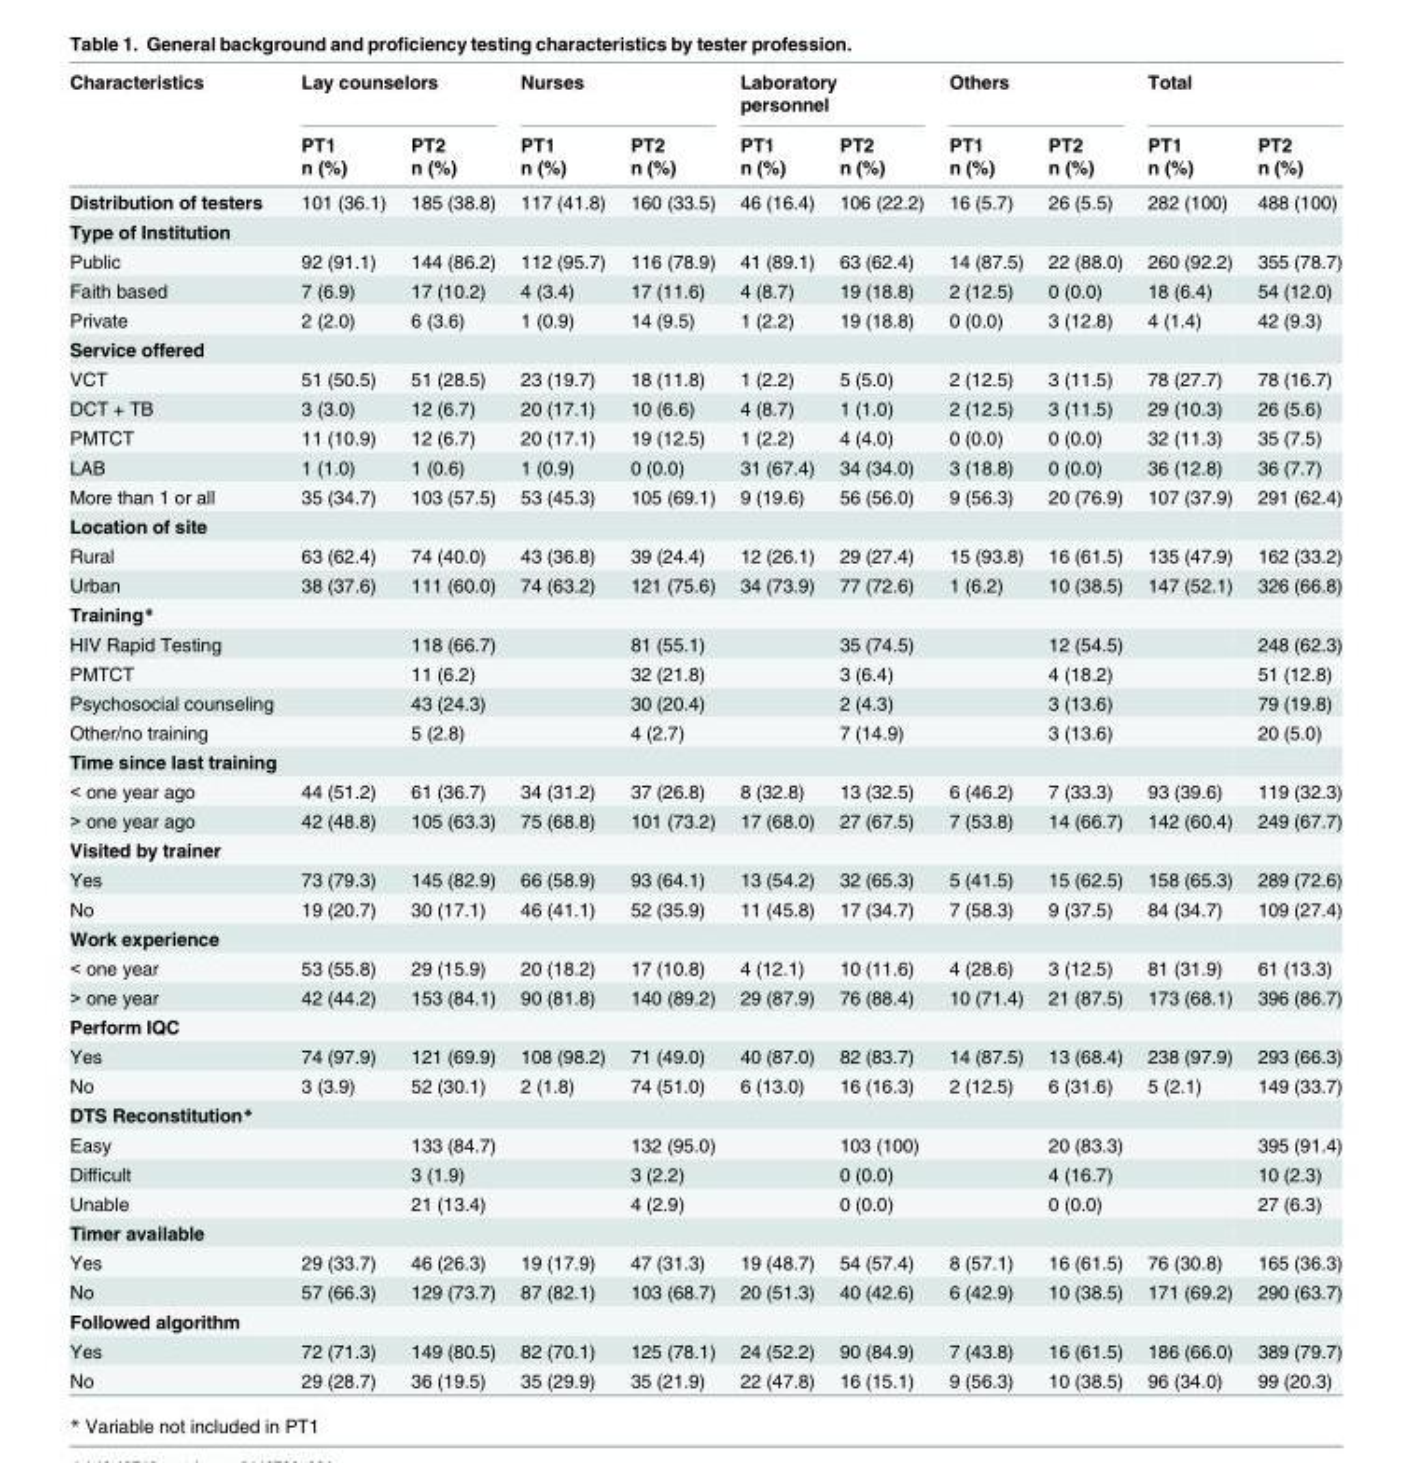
<table><thead><tr><td rowspan="3">Characteristics</td><td colspan="2">Lay counselors</td><td colspan="2">Nurses</td><td colspan="2">Laboratory personnel</td><td colspan="2">Others</td><td colspan="2">Total</td></tr><tr><td rowspan="2">PT1 n (%)</td><td rowspan="2">PT2 n (%)</td><td rowspan="2">PT1 n (%)</td><td rowspan="2">PT2 n (%)</td><td rowspan="2">PT1 n (%)</td><td rowspan="2">PT2 n (%)</td><td rowspan="2">PT1 n (%)</td><td rowspan="2">PT2 n (%)</td><td rowspan="2">PT1 n (%)</td><td rowspan="2">PT2 n (%)</td></tr><tr></tr></thead><tbody><tr><td>Distribution of testers</td><td>101 (36.1)</td><td>185 (38.8)</td><td>117 (41.8)</td><td>160 (33.5)</td><td>46 (16.4)</td><td>106 (22.2)</td><td>16 (5.7)</td><td>26 (5.5)</td><td>282 (100)</td><td>488 (100)</td></tr><tr><td colspan="11">Type of Institution</td></tr><tr><td>Public</td><td>92 (91.1)</td><td>144 (86.2)</td><td>112 (95.7)</td><td>116 (78.9)</td><td>41 (89.1)</td><td>63 (62.4)</td><td>14 (87.5)</td><td>22 (88.0)</td><td>260 (92.2)</td><td>355 (78.7)</td></tr><tr><td>Faith based</td><td>7 (6.9)</td><td>17 (10.2)</td><td>4 (3.4)</td><td>17 (11.6)</td><td>4 (8.7)</td><td>19 (18.8)</td><td>2 (12.5)</td><td>0 (0.0)</td><td>18 (6.4)</td><td>54 (12.0)</td></tr><tr><td>Private</td><td>2 (2.0)</td><td>6 (3.6)</td><td>1 (0.9)</td><td>14 (9.5)</td><td>1 (2.2)</td><td>19 (18.8)</td><td>0 (0.0)</td><td>3 (12.8)</td><td>4 (1.4)</td><td>42 (9.3)</td></tr><tr><td colspan="11">Service offered</td></tr><tr><td>VCT</td><td>51 (50.5)</td><td>51 (28.5)</td><td>23 (19.7)</td><td>18 (11.8)</td><td>1 (2.2)</td><td>5 (5.0)</td><td>2 (12.5)</td><td>3 (11.5)</td><td>78 (27.7)</td><td>78 (16.7)</td></tr><tr><td>DCT + TB</td><td>3 (3.0)</td><td>12 (6.7)</td><td>20 (17.1)</td><td>10 (6.6)</td><td>4 (8.7)</td><td>1 (1.0)</td><td>2 (12.5)</td><td>3 (11.5)</td><td>29 (10.3)</td><td>26 (5.6)</td></tr><tr><td>PMTCT</td><td>11 (10.9)</td><td>12 (6.7)</td><td>20 (17.1)</td><td>19 (12.5)</td><td>1 (2.2)</td><td>4 (4.0)</td><td>0 (0.0)</td><td>0 (0.0)</td><td>32 (11.3)</td><td>35 (7.5)</td></tr><tr><td>LAB</td><td>1 (1.0)</td><td>1 (0.6)</td><td>1 (0.9)</td><td>0 (0.0)</td><td>31 (67.4)</td><td>34 (34.0)</td><td>3 (18.8)</td><td>0 (0.0)</td><td>36 (12.8)</td><td>36 (7.7)</td></tr><tr><td>More than 1 or all</td><td>35 (34.7)</td><td>103 (57.5)</td><td>53 (45.3)</td><td>105 (69.1)</td><td>9 (19.6)</td><td>56 (56.0)</td><td>9 (56.3)</td><td>20 (76.9)</td><td>107 (37.9)</td><td>291 (62.4)</td></tr><tr><td colspan="11">Location of site</td></tr><tr><td>Rural</td><td>63 (62.4)</td><td>74 (40.0)</td><td>43 (36.8)</td><td>39 (24.4)</td><td>12 (26.1)</td><td>29 (27.4)</td><td>15 (93.8)</td><td>16 (61.5)</td><td>135 (47.9)</td><td>162 (33.2)</td></tr><tr><td>Urban</td><td>38 (37.6)</td><td>111 (60.0)</td><td>74 (63.2)</td><td>121 (75.6)</td><td>34 (73.9)</td><td>77 (72.6)</td><td>1 (6.2)</td><td>10 (38.5)</td><td>147 (52.1)</td><td>326 (66.8)</td></tr><tr><td colspan="11">Training*</td></tr><tr><td>HIV Rapid Testing</td><td></td><td>118 (66.7)</td><td></td><td>81 (55.1)</td><td></td><td>35 (74.5)</td><td></td><td>12 (54.5)</td><td></td><td>248 (62.3)</td></tr><tr><td>PMTCT</td><td></td><td>11 (6.2)</td><td></td><td>32 (21.8)</td><td></td><td>3 (6.4)</td><td></td><td>4 (18.2)</td><td></td><td>51 (12.8)</td></tr><tr><td>Psychosocial counseling</td><td></td><td>43 (24.3)</td><td></td><td>30 (20.4)</td><td></td><td>2 (4.3)</td><td></td><td>3 (13.6)</td><td></td><td>79 (19.8)</td></tr><tr><td>Other/no training</td><td></td><td>5 (2.8)</td><td></td><td>4 (2.7)</td><td></td><td>7 (14.9)</td><td></td><td>3 (13.6)</td><td></td><td>20 (5.0)</td></tr><tr><td colspan="11">Time since last training</td></tr><tr><td>&lt; one year ago</td><td>44 (51.2)</td><td>61 (36.7)</td><td>34 (31.2)</td><td>37 (26.8)</td><td>8 (32.8)</td><td>13 (32.5)</td><td>6 (46.2)</td><td>7 (33.3)</td><td>93 (39.6)</td><td>119 (32.3)</td></tr><tr><td>&gt; one year ago</td><td>42 (48.8)</td><td>105 (63.3)</td><td>75 (68.8)</td><td>101 (73.2)</td><td>17 (68.0)</td><td>27 (67.5)</td><td>7 (53.8)</td><td>14 (66.7)</td><td>142 (60.4)</td><td>249 (67.7)</td></tr><tr><td colspan="11">Visited by trainer</td></tr><tr><td>Yes</td><td>73 (79.3)</td><td>145 (82.9)</td><td>66 (58.9)</td><td>93 (64.1)</td><td>13 (54.2)</td><td>32 (65.3)</td><td>5 (41.5)</td><td>15 (62.5)</td><td>158 (65.3)</td><td>289 (72.6)</td></tr><tr><td>No</td><td>19 (20.7)</td><td>30 (17.1)</td><td>46 (41.1)</td><td>52 (35.9)</td><td>11 (45.8)</td><td>17 (34.7)</td><td>7 (58.3)</td><td>9 (37.5)</td><td>84 (34.7)</td><td>109 (27.4)</td></tr><tr><td colspan="11">Work experience</td></tr><tr><td>&lt; one year</td><td>53 (55.8)</td><td>29 (15.9)</td><td>20 (18.2)</td><td>17 (10.8)</td><td>4 (12.1)</td><td>10 (11.6)</td><td>4 (28.6)</td><td>3 (12.5)</td><td>81 (31.9)</td><td>61 (13.3)</td></tr><tr><td>&gt; one year</td><td>42 (44.2)</td><td>153 (84.1)</td><td>90 (81.8)</td><td>140 (89.2)</td><td>29 (87.9)</td><td>76 (88.4)</td><td>10 (71.4)</td><td>21 (87.5)</td><td>173 (68.1)</td><td>396 (86.7)</td></tr><tr><td colspan="11">Perform IQC</td></tr><tr><td>Yes</td><td>74 (97.9)</td><td>121 (69.9)</td><td>108 (98.2)</td><td>71 (49.0)</td><td>40 (87.0)</td><td>82 (83.7)</td><td>14 (87.5)</td><td>13 (68.4)</td><td>238 (97.9)</td><td>293 (66.3)</td></tr><tr><td>No</td><td>3 (3.9)</td><td>52 (30.1)</td><td>2 (1.8)</td><td>74 (51.0)</td><td>6 (13.0)</td><td>16 (16.3)</td><td>2 (12.5)</td><td>6 (31.6)</td><td>5 (2.1)</td><td>149 (33.7)</td></tr><tr><td colspan="11">DTS Reconstitution*</td></tr><tr><td>Easy</td><td></td><td>133 (84.7)</td><td></td><td>132 (95.0)</td><td></td><td>103 (100)</td><td></td><td>20 (83.3)</td><td></td><td>395 (91.4)</td></tr><tr><td>Difficult</td><td></td><td>3 (1.9)</td><td></td><td>3 (2.2)</td><td></td><td>0 (0.0)</td><td></td><td>4 (16.7)</td><td></td><td>10 (2.3)</td></tr><tr><td>Unable</td><td></td><td>21 (13.4)</td><td></td><td>4 (2.9)</td><td></td><td>0 (0.0)</td><td></td><td>0 (0.0)</td><td></td><td>27 (6.3)</td></tr><tr><td colspan="11">Timer available</td></tr><tr><td>Yes</td><td>29 (33.7)</td><td>46 (26.3)</td><td>19 (17.9)</td><td>47 (31.3)</td><td>19 (48.7)</td><td>54 (57.4)</td><td>8 (57.1)</td><td>16 (61.5)</td><td>76 (30.8)</td><td>165 (36.3)</td></tr><tr><td>No</td><td>57 (66.3)</td><td>129 (73.7)</td><td>87 (82.1)</td><td>103 (68.7)</td><td>20 (51.3)</td><td>40 (42.6)</td><td>6 (42.9)</td><td>10 (38.5)</td><td>171 (69.2)</td><td>290 (63.7)</td></tr><tr><td colspan="11">Followed algorithm</td></tr><tr><td>Yes</td><td>72 (71.3)</td><td>149 (80.5)</td><td>82 (70.1)</td><td>125 (78.1)</td><td>24 (52.2)</td><td>90 (84.9)</td><td>7 (43.8)</td><td>16 (61.5)</td><td>186 (66.0)</td><td>389 (79.7)</td></tr><tr><td>No</td><td>29 (28.7)</td><td>36 (19.5)</td><td>35 (29.9)</td><td>35 (21.9)</td><td>22 (47.8)</td><td>16 (15.1)</td><td>9 (56.3)</td><td>10 (38.5)</td><td>96 (34.0)</td><td>99 (20.3)</td></tr></tbody></table>